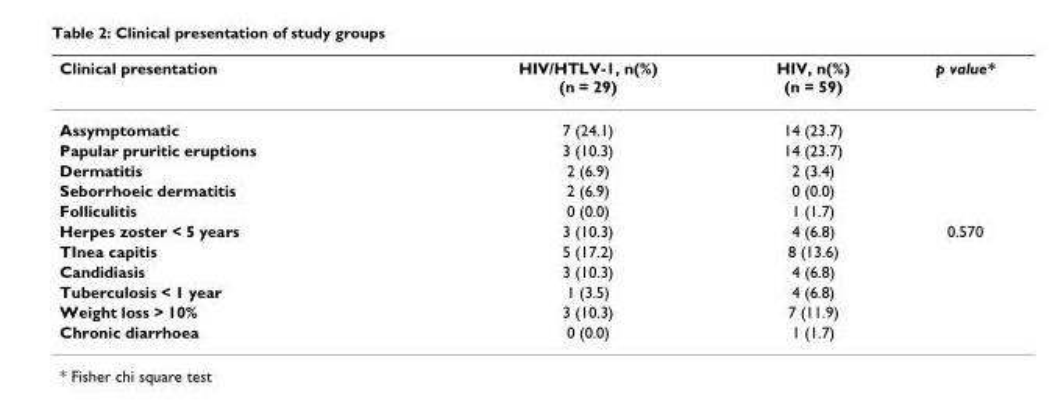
<table><thead><tr><td>Clinical presentation</td><td>HIV/HTLV-1, n(%) (n = 29)</td><td>HIV, n(%) (n = 59)</td><td>p value*</td></tr></thead><tbody><tr><td>Assymptomatic</td><td>7 (24.1)</td><td>14 (23.7)</td><td></td></tr><tr><td>Papular pruritic eruptions</td><td>3 (10.3)</td><td>14 (23.7)</td><td></td></tr><tr><td>Dermatitis</td><td>2 (6.9)</td><td>2 (3.4)</td><td></td></tr><tr><td>Seborrhoeic dermatitis</td><td>2 (6.9)</td><td>0 (0.0)</td><td></td></tr><tr><td>Folliculitis</td><td>0 (0.0)</td><td>1 (1.7)</td><td></td></tr><tr><td>Herpes zoster &lt; 5 years</td><td>3 (10.3)</td><td>4 (6.8)</td><td>0.570</td></tr><tr><td>TInea capitis</td><td>5 (17.2)</td><td>8 (13.6)</td><td></td></tr><tr><td>Candidiasis</td><td>3 (10.3)</td><td>4 (6.8)</td><td></td></tr><tr><td>Tuberculosis &lt; 1 year</td><td>1 (3.5)</td><td>4 (6.8)</td><td></td></tr><tr><td>Weight loss &gt; 10%</td><td>3 (10.3)</td><td>7 (11.9)</td><td></td></tr><tr><td>Chronic diarrhoea</td><td>0 (0.0)</td><td>1 (1.7)</td><td></td></tr></tbody></table>